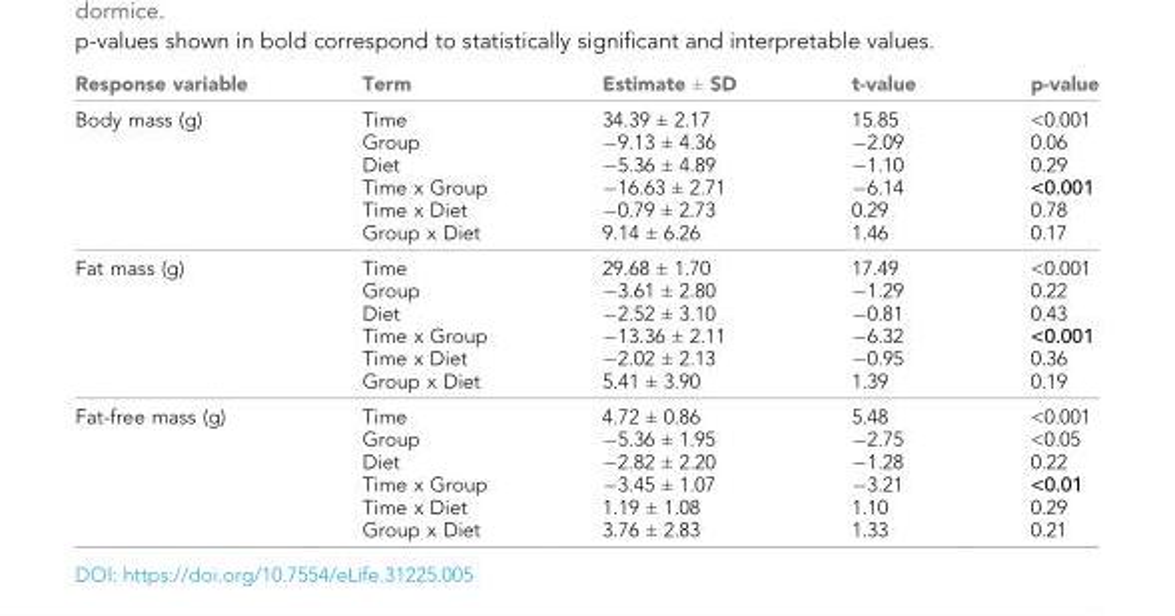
<table><thead><tr><td>Response variable</td><td>Term</td><td>Estimate ± SD</td><td>t-value</td><td>p-value</td></tr></thead><tbody><tr><td>Body mass (g)</td><td>Time Group Diet Time x Group Time x Diet Group x Diet</td><td>34.39 ± 2.17 −9.13 ± 4.36 −5.36 ± 4.89 −16.63 ± 2.71 −0.79 ± 2.73 9.14 ± 6.26</td><td>15.85 −2.09 −1.10 −6.14 0.29 1.46</td><td>&lt;0.001 0.06 0.29 &lt;0.001 0.78 0.17</td></tr><tr><td>Fat mass (g)</td><td>Time Group Diet Time x Group Time x Diet Group x Diet</td><td>29.68 ± 1.70 −3.61 ± 2.80 −2.52 ± 3.10 −13.36 ± 2.11 −2.02 ± 2.13 5.41 ± 3.90</td><td>17.49 −1.29 −0.81 −6.32 −0.95 1.39</td><td>&lt;0.001 0.22 0.43 &lt;0.001 0.36 0.19</td></tr><tr><td>Fat-free mass (g)</td><td>Time Group Diet Time x Group Time x Diet Group x Diet</td><td>4.72 ± 0.86 −5.36 ± 1.95 −2.82 ± 2.20 −3.45 ± 1.07 1.19 ± 1.08 3.76 ± 2.83</td><td>5.48 −2.75 −1.28 −3.21 1.10 1.33</td><td>&lt;0.001 &lt;0.05 0.22 &lt;0.01 0.29 0.21</td></tr></tbody></table>